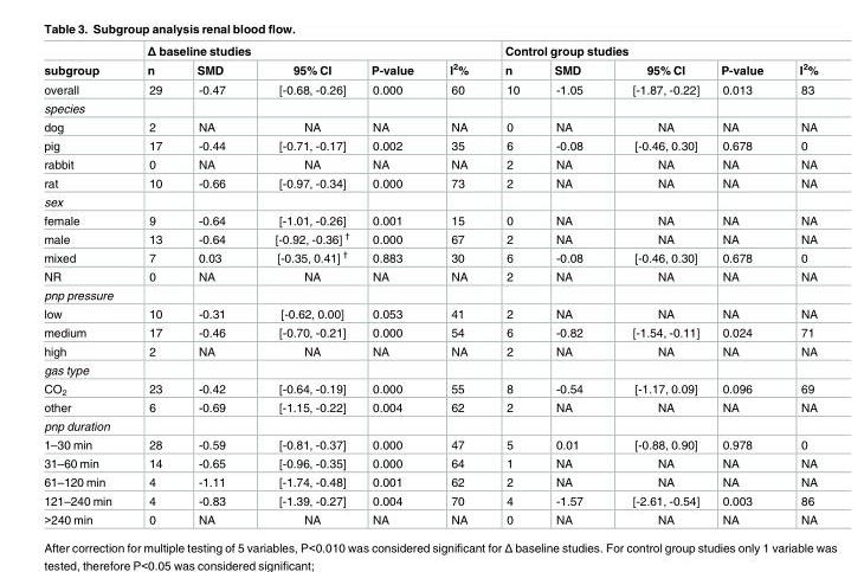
<table><thead><tr><td rowspan="2">subgroup</td><td colspan="5">Δ baseline studies</td><td colspan="5">Control group studies</td></tr><tr><td>n</td><td>SMD</td><td>95% CI</td><td>P-value</td><td>I<sup>2</sup>%</td><td>n</td><td>SMD</td><td>95% CI</td><td>P-value</td><td>I<sup>2</sup>%</td></tr></thead><tbody><tr><td>overall</td><td>29</td><td>-0.47</td><td>[-0.68, -0.26]</td><td>0.000</td><td>60</td><td>10</td><td>-1.05</td><td>[-1.87, -0.22]</td><td>0.013</td><td>83</td></tr><tr><td colspan="11">species</td></tr><tr><td>dog</td><td>2</td><td>NA</td><td>NA</td><td>NA</td><td>NA</td><td>0</td><td>NA</td><td>NA</td><td>NA</td><td>NA</td></tr><tr><td>pig</td><td>17</td><td>-0.44</td><td>[-0.71, -0.17]</td><td>0.002</td><td>35</td><td>6</td><td>-0.08</td><td>[-0.46, 0.30]</td><td>0.678</td><td>0</td></tr><tr><td>rabbit</td><td>0</td><td>NA</td><td>NA</td><td>NA</td><td>NA</td><td>2</td><td>NA</td><td>NA</td><td>NA</td><td>NA</td></tr><tr><td>rat</td><td>10</td><td>-0.66</td><td>[-0.97, -0.34]</td><td>0.000</td><td>73</td><td>2</td><td>NA</td><td>NA</td><td>NA</td><td>NA</td></tr><tr><td colspan="11">sex</td></tr><tr><td>female</td><td>9</td><td>-0.64</td><td>[-1.01, -0.26]</td><td>0.001</td><td>15</td><td>0</td><td>NA</td><td>NA</td><td>NA</td><td>NA</td></tr><tr><td>male</td><td>13</td><td>-0.64</td><td>[-0.92, -0.36] <sup>†</sup></td><td>0.000</td><td>67</td><td>2</td><td>NA</td><td>NA</td><td>NA</td><td>NA</td></tr><tr><td>mixed</td><td>7</td><td>0.03</td><td>[-0.35, 0.41] <sup>†</sup></td><td>0.883</td><td>30</td><td>6</td><td>-0.08</td><td>[-0.46, 0.30]</td><td>0.678</td><td>0</td></tr><tr><td>NR</td><td>0</td><td>NA</td><td>NA</td><td>NA</td><td>NA</td><td>2</td><td>NA</td><td>NA</td><td>NA</td><td>NA</td></tr><tr><td colspan="11">pnp pressure</td></tr><tr><td>low</td><td>10</td><td>-0.31</td><td>[-0.62, 0.00]</td><td>0.053</td><td>41</td><td>2</td><td>NA</td><td>NA</td><td>NA</td><td>NA</td></tr><tr><td>medium</td><td>17</td><td>-0.46</td><td>[-0.70, -0.21]</td><td>0.000</td><td>54</td><td>6</td><td>-0.82</td><td>[-1.54, -0.11]</td><td>0.024</td><td>71</td></tr><tr><td>high</td><td>2</td><td>NA</td><td>NA</td><td>NA</td><td>NA</td><td>2</td><td>NA</td><td>NA</td><td>NA</td><td>NA</td></tr><tr><td colspan="11">gas type</td></tr><tr><td>CO<sub>2</sub></td><td>23</td><td>-0.42</td><td>[-0.64, -0.19]</td><td>0.000</td><td>55</td><td>8</td><td>-0.54</td><td>[-1.17, 0.09]</td><td>0.096</td><td>69</td></tr><tr><td>other</td><td>6</td><td>-0.69</td><td>[-1.15, -0.22]</td><td>0.004</td><td>62</td><td>2</td><td>NA</td><td>NA</td><td>NA</td><td>NA</td></tr><tr><td colspan="11">pnp duration</td></tr><tr><td>1–30 min</td><td>28</td><td>-0.59</td><td>[-0.81, -0.37]</td><td>0.000</td><td>47</td><td>5</td><td>0.01</td><td>[-0.88, 0.90]</td><td>0.978</td><td>0</td></tr><tr><td>31–60 min</td><td>14</td><td>-0.65</td><td>[-0.96, -0.35]</td><td>0.000</td><td>64</td><td>1</td><td>NA</td><td>NA</td><td>NA</td><td>NA</td></tr><tr><td>61–120 min</td><td>4</td><td>-1.11</td><td>[-1.74, -0.48]</td><td>0.001</td><td>62</td><td>2</td><td>NA</td><td>NA</td><td>NA</td><td>NA</td></tr><tr><td>121–240 min</td><td>4</td><td>-0.83</td><td>[-1.39, -0.27]</td><td>0.004</td><td>70</td><td>4</td><td>-1.57</td><td>[-2.61, -0.54]</td><td>0.003</td><td>86</td></tr><tr><td>&gt;240 min</td><td>0</td><td>NA</td><td>NA</td><td>NA</td><td>NA</td><td>0</td><td>NA</td><td>NA</td><td>NA</td><td>NA</td></tr></tbody></table>